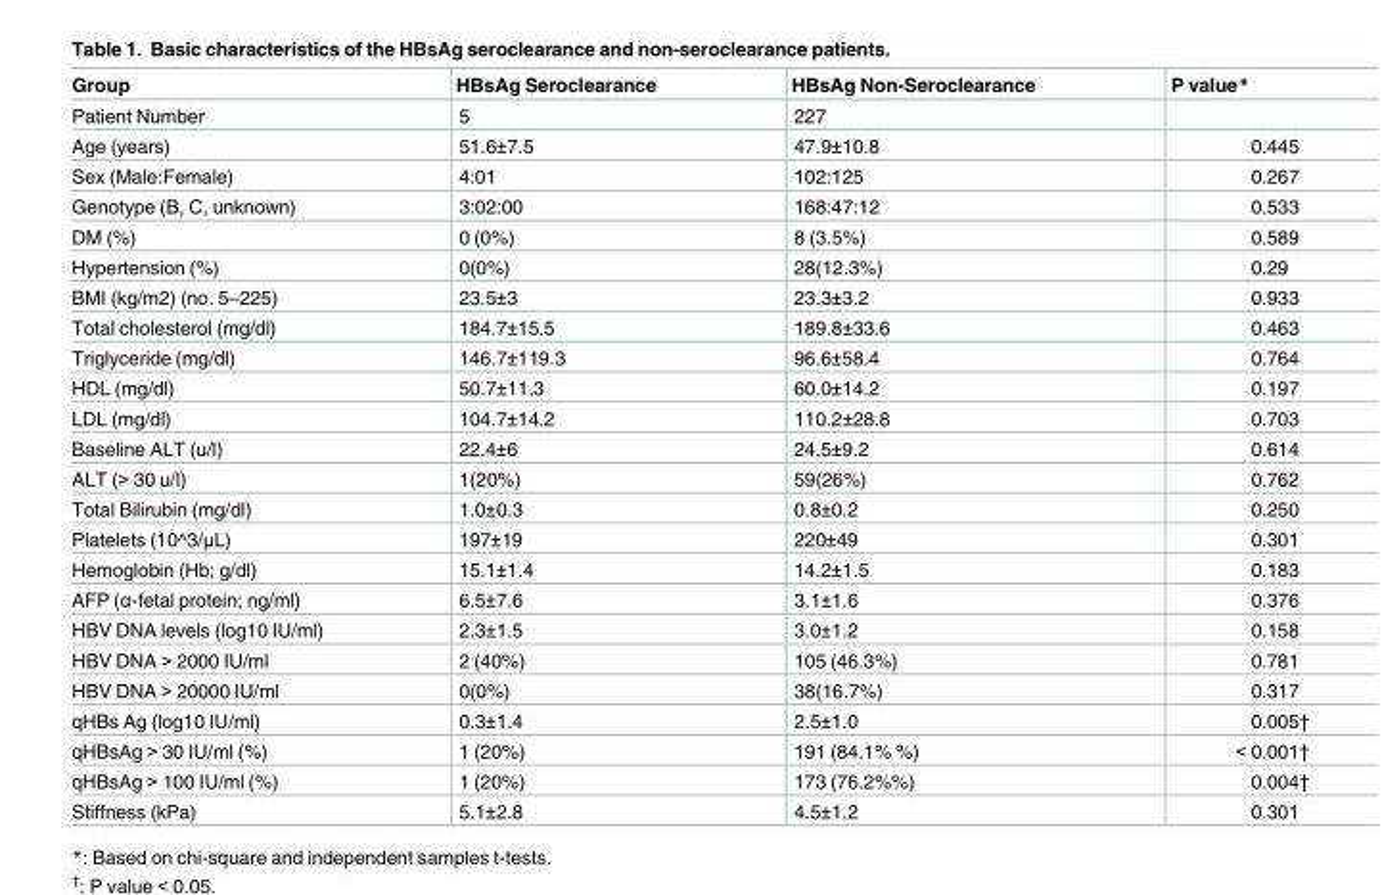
<table><thead><tr><td>Group</td><td>HBsAg Seroclearance</td><td>HBsAg Non-Seroclearance</td><td>P value*</td></tr></thead><tbody><tr><td>Patient Number</td><td>5</td><td>227</td><td></td></tr><tr><td>Age (years)</td><td>51.6±7.5</td><td>47.9±10.8</td><td>0.445</td></tr><tr><td>Sex (Male:Female)</td><td>4:01</td><td>102:125</td><td>0.267</td></tr><tr><td>Genotype (B, C, unknown)</td><td>3:02:00</td><td>168:47:12</td><td>0.533</td></tr><tr><td>DM (%)</td><td>0 (0%)</td><td>8 (3.5%)</td><td>0.589</td></tr><tr><td>Hypertension (%)</td><td>0(0%)</td><td>28(12.3%)</td><td>0.29</td></tr><tr><td>BMI (kg/m2) (no. 5–225)</td><td>23.5±3</td><td>23.3±3.2</td><td>0.933</td></tr><tr><td>Total cholesterol (mg/dl)</td><td>184.7±15.5</td><td>189.8±33.6</td><td>0.463</td></tr><tr><td>Triglyceride (mg/dl)</td><td>146.7±119.3</td><td>96.6±58.4</td><td>0.764</td></tr><tr><td>HDL (mg/dl)</td><td>50.7±11.3</td><td>60.0±14.2</td><td>0.197</td></tr><tr><td>LDL (mg/dl)</td><td>104.7±14.2</td><td>110.2±28.8</td><td>0.703</td></tr><tr><td>Baseline ALT (u/l)</td><td>22.4±6</td><td>24.5±9.2</td><td>0.614</td></tr><tr><td>ALT (&gt; 30 u/l)</td><td>1(20%)</td><td>59(26%)</td><td>0.762</td></tr><tr><td>Total Bilirubin (mg/dl)</td><td>1.0±0.3</td><td>0.8±0.2</td><td>0.250</td></tr><tr><td>Platelets (10^3/μL)</td><td>197±19</td><td>220±49</td><td>0.301</td></tr><tr><td>Hemoglobin (Hb; g/dl)</td><td>15.1±1.4</td><td>14.2±1.5</td><td>0.183</td></tr><tr><td>AFP (α-fetal protein; ng/ml)</td><td>6.5±7.6</td><td>3.1±1.6</td><td>0.376</td></tr><tr><td>HBV DNA levels (log10 IU/ml)</td><td>2.3±1.5</td><td>3.0±1.2</td><td>0.158</td></tr><tr><td>HBV DNA &gt; 2000 IU/ml</td><td>2 (40%)</td><td>105 (46.3%)</td><td>0.781</td></tr><tr><td>HBV DNA &gt; 20000 IU/ml</td><td>0(0%)</td><td>38(16.7%)</td><td>0.317</td></tr><tr><td>qHBs Ag (log10 IU/ml)</td><td>0.3±1.4</td><td>2.5±1.0</td><td>0.005†</td></tr><tr><td>qHBsAg &gt; 30 IU/ml (%)</td><td>1 (20%)</td><td>191 (84.1% %)</td><td>&lt; 0.001†</td></tr><tr><td>qHBsAg &gt; 100 IU/ml (%)</td><td>1 (20%)</td><td>173 (76.2%%)</td><td>0.004†</td></tr><tr><td>Stiffness (kPa)</td><td>5.1±2.8</td><td>4.5±1.2</td><td>0.301</td></tr></tbody></table>